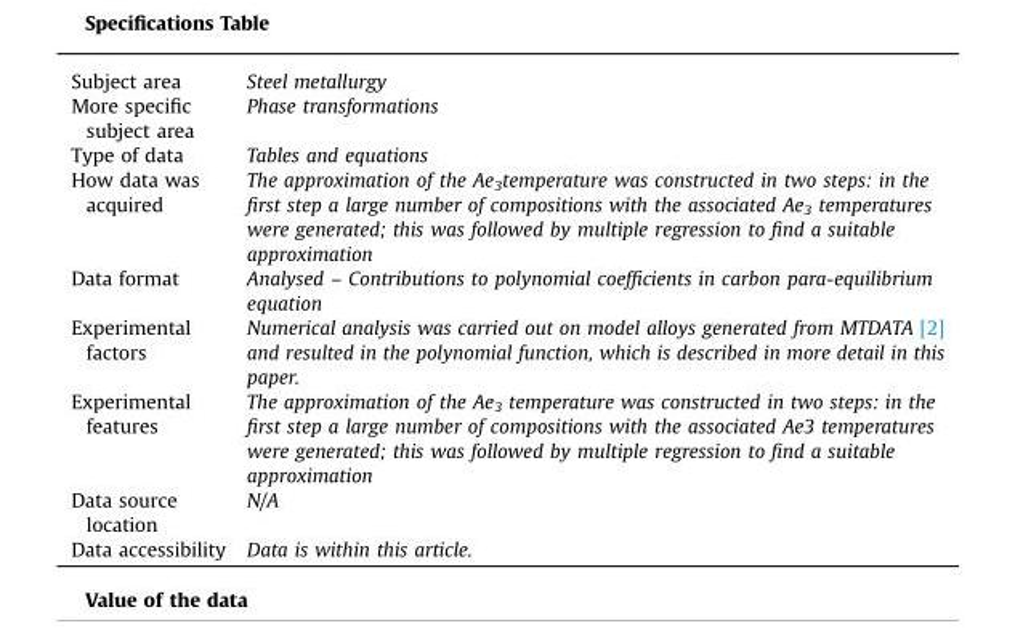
<table><tbody><tr><td>Subject area</td><td>Steel metallurgy</td></tr><tr><td>More specific subject area</td><td>Phase transformations</td></tr><tr><td>Type of data</td><td>Tables and equations</td></tr><tr><td>How data was acquired</td><td>The approximation of the Ae<sub>3</sub>temperature was constructed in two steps: in the first step a large number of compositions with the associated Ae<sub>3</sub> temperatures were generated; this was followed by multiple regression to find a suitable approximation</td></tr><tr><td>Data format</td><td>Analysed – Contributions to polynomial coefficients in carbon para-equilibrium equation</td></tr><tr><td>Experimental factors</td><td>Numerical analysis was carried out on model alloys generated from MTDATA [2] and resulted in the polynomial function, which is described in more detail in this paper.</td></tr><tr><td>Experimental features</td><td>The approximation of the Ae<sub>3</sub> temperature was constructed in two steps: in the first step a large number of compositions with the associated Ae3 temperatures were generated; this was followed by multiple regression to find a suitable approximation</td></tr><tr><td>Data source location</td><td>N/A</td></tr><tr><td>Data accessibility</td><td>Data is within this article.</td></tr></tbody></table>